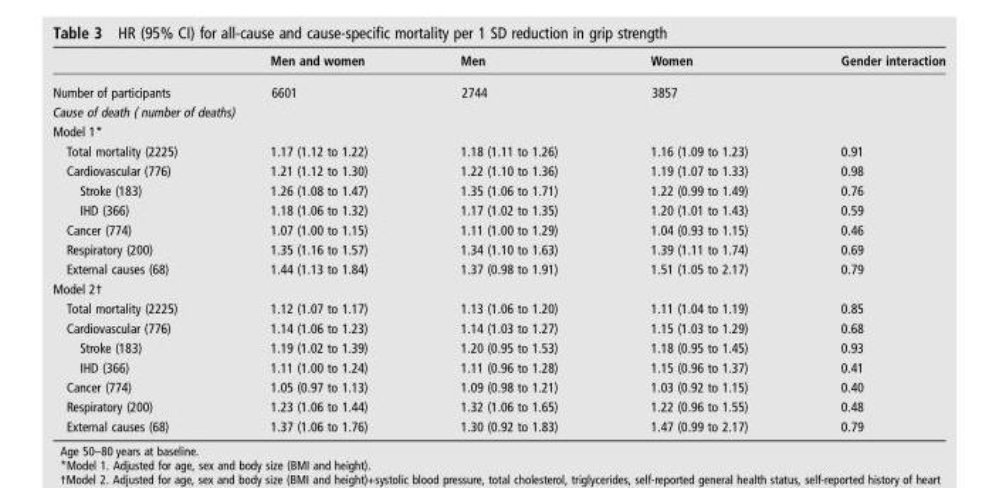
<table><thead><tr><td></td><td>Men and women</td><td>Men</td><td>Women</td><td>Gender interaction</td></tr></thead><tbody><tr><td>Number of participants</td><td>6601</td><td>2744</td><td>3857</td><td></td></tr><tr><td colspan="5">Cause of death ( number of deaths)</td></tr><tr><td colspan="5">Model 1*</td></tr><tr><td>Total mortality (2225)</td><td>1.17 (1.12 to 1.22)</td><td>1.18 (1.11 to 1.26)</td><td>1.16 (1.09 to 1.23)</td><td>0.91</td></tr><tr><td>Cardiovascular (776)</td><td>1.21 (1.12 to 1.30)</td><td>1.22 (1.10 to 1.36)</td><td>1.19 (1.07 to 1.33)</td><td>0.98</td></tr><tr><td>Stroke (183)</td><td>1.26 (1.08 to 1.47)</td><td>1.35 (1.06 to 1.71)</td><td>1.22 (0.99 to 1.49)</td><td>0.76</td></tr><tr><td>IHD (366)</td><td>1.18 (1.06 to 1.32)</td><td>1.17 (1.02 to 1.35)</td><td>1.20 (1.01 to 1.43)</td><td>0.59</td></tr><tr><td>Cancer (774)</td><td>1.07 (1.00 to 1.15)</td><td>1.11 (1.00 to 1.29)</td><td>1.04 (0.93 to 1.15)</td><td>0.46</td></tr><tr><td>Respiratory (200)</td><td>1.35 (1.16 to 1.57)</td><td>1.34 (1.10 to 1.63)</td><td>1.39 (1.11 to 1.74)</td><td>0.69</td></tr><tr><td>External causes (68)</td><td>1.44 (1.13 to 1.84)</td><td>1.37 (0.98 to 1.91)</td><td>1.51 (1.05 to 2.17)</td><td>0.79</td></tr><tr><td colspan="5">Model 2†</td></tr><tr><td>Total mortality (2225)</td><td>1.12 (1.07 to 1.17)</td><td>1.13 (1.06 to 1.20)</td><td>1.11 (1.04 to 1.19)</td><td>0.85</td></tr><tr><td>Cardiovascular (776)</td><td>1.14 (1.06 to 1.23)</td><td>1.14 (1.03 to 1.27)</td><td>1.15 (1.03 to 1.29)</td><td>0.68</td></tr><tr><td>Stroke (183)</td><td>1.19 (1.02 to 1.39)</td><td>1.20 (0.95 to 1.53)</td><td>1.18 (0.95 to 1.45)</td><td>0.93</td></tr><tr><td>IHD (366)</td><td>1.11 (1.00 to 1.24)</td><td>1.11 (0.96 to 1.28)</td><td>1.15 (0.96 to 1.37)</td><td>0.41</td></tr><tr><td>Cancer (774)</td><td>1.05 (0.97 to 1.13)</td><td>1.09 (0.98 to 1.21)</td><td>1.03 (0.92 to 1.15)</td><td>0.40</td></tr><tr><td>Respiratory (200)</td><td>1.23 (1.06 to 1.44)</td><td>1.32 (1.06 to 1.65)</td><td>1.22 (0.96 to 1.55)</td><td>0.48</td></tr><tr><td>External causes (68)</td><td>1.37 (1.06 to 1.76)</td><td>1.30 (0.92 to 1.83)</td><td>1.47 (0.99 to 2.17)</td><td>0.79</td></tr></tbody></table>